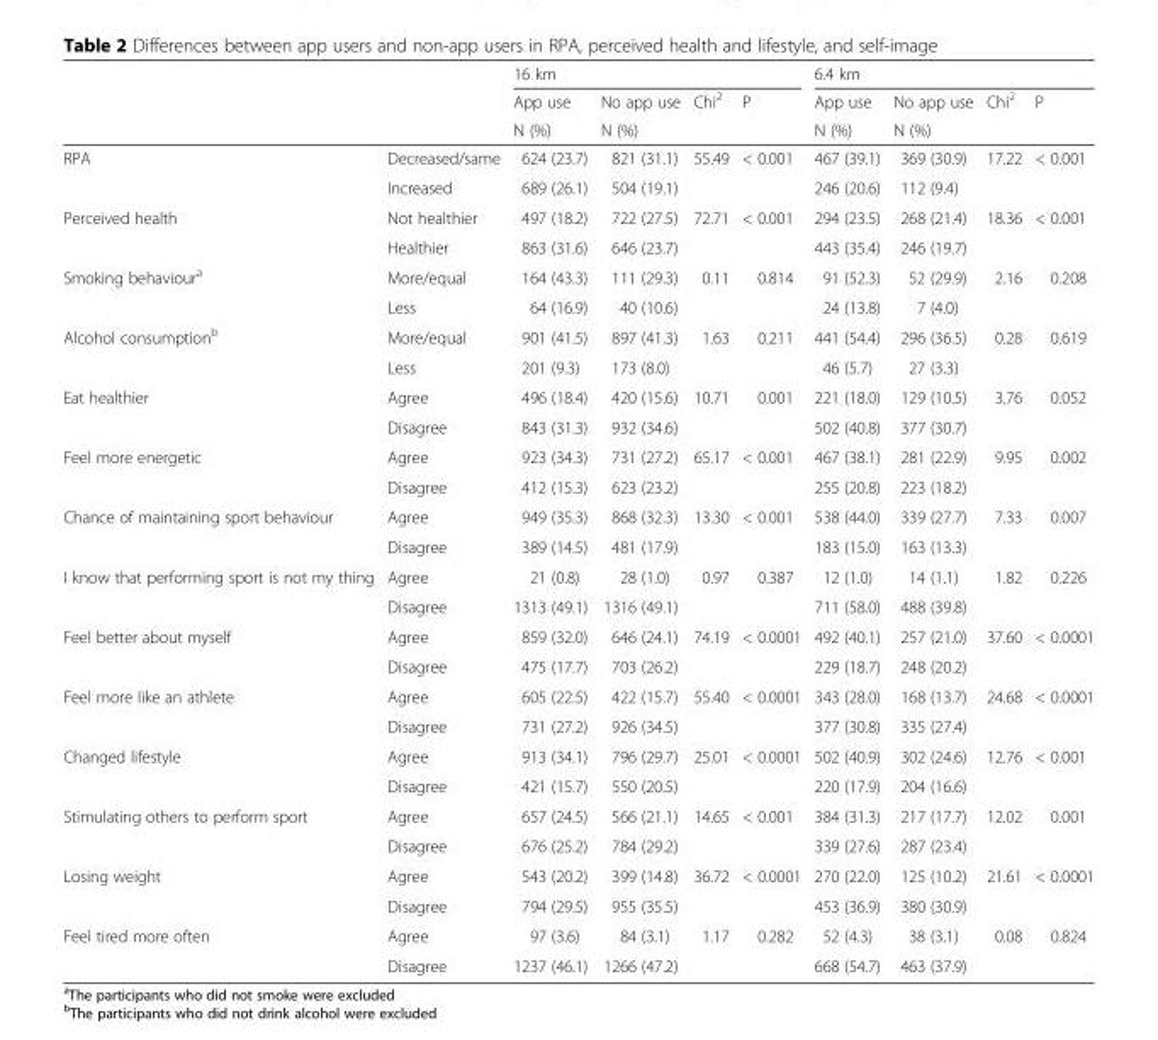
<table><thead><tr><td rowspan="3"></td><td rowspan="3"></td><td colspan="4">16 km</td><td colspan="4">6.4 km</td></tr><tr><td rowspan="2">App use N (%)</td><td rowspan="2">No app use N (%)</td><td rowspan="2">Chi<sup>2</sup></td><td rowspan="2">P</td><td rowspan="2">App use N (%)</td><td rowspan="2">No app use N (%)</td><td rowspan="2">Chi<sup>2</sup></td><td rowspan="2">P</td></tr><tr></tr></thead><tbody><tr><td rowspan="2">RPA</td><td>Decreased/same</td><td>624 (23.7)</td><td>821 (31.1)</td><td rowspan="2">55.49</td><td rowspan="2">&lt; 0.001</td><td>467 (39.1)</td><td>369 (30.9)</td><td rowspan="2">17.22</td><td rowspan="2">&lt; 0.001</td></tr><tr><td>Increased</td><td>689 (26.1)</td><td>504 (19.1)</td><td>246 (20.6)</td><td>112 (9.4)</td></tr><tr><td rowspan="2">Perceived health</td><td>Not healthier</td><td>497 (18.2)</td><td>722 (27.5)</td><td>72.71</td><td>&lt; 0.001</td><td>294 (23.5)</td><td>268 (21.4)</td><td>18.36</td><td>&lt; 0.001</td></tr><tr><td>Healthier</td><td>863 (31.6)</td><td>646 (23.7)</td><td></td><td></td><td>443 (35.4)</td><td>246 (19.7)</td><td></td><td></td></tr><tr><td rowspan="2">Smoking behaviour<sup>a</sup></td><td>More/equal</td><td>164 (43.3)</td><td>111 (29.3)</td><td>0.11</td><td>0.814</td><td>91 (52.3)</td><td>52 (29.9)</td><td>2.16</td><td>0.208</td></tr><tr><td>Less</td><td>64 (16.9)</td><td>40 (10.6)</td><td></td><td></td><td>24 (13.8)</td><td>7 (4.0)</td><td></td><td></td></tr><tr><td rowspan="2">Alcohol consumption<sup>b</sup></td><td>More/equal</td><td>901 (41.5)</td><td>897 (41.3)</td><td>1.63</td><td>0.211</td><td>441 (54.4)</td><td>296 (36.5)</td><td>0.28</td><td>0.619</td></tr><tr><td>Less</td><td>201 (9.3)</td><td>173 (8.0)</td><td></td><td></td><td>46 (5.7)</td><td>27 (3.3)</td><td></td><td></td></tr><tr><td rowspan="2">Eat healthier</td><td>Agree</td><td>496 (18.4)</td><td>420 (15.6)</td><td>10.71</td><td>0.001</td><td>221 (18.0)</td><td>129 (10.5)</td><td>3.76</td><td>0.052</td></tr><tr><td>Disagree</td><td>843 (31.3)</td><td>932 (34.6)</td><td></td><td></td><td>502 (40.8)</td><td>377 (30.7)</td><td></td><td></td></tr><tr><td rowspan="2">Feel more energetic</td><td>Agree</td><td>923 (34.3)</td><td>731 (27.2)</td><td>65.17</td><td>&lt; 0.001</td><td>467 (38.1)</td><td>281 (22.9)</td><td>9.95</td><td>0.002</td></tr><tr><td>Disagree</td><td>412 (15.3)</td><td>623 (23.2)</td><td></td><td></td><td>255 (20.8)</td><td>223 (18.2)</td><td></td><td></td></tr><tr><td rowspan="2">Chance of maintaining sport behaviour</td><td>Agree</td><td>949 (35.3)</td><td>868 (32.3)</td><td>13.30</td><td>&lt; 0.001</td><td>538 (44.0)</td><td>339 (27.7)</td><td>7.33</td><td>0.007</td></tr><tr><td>Disagree</td><td>389 (14.5)</td><td>481 (17.9)</td><td></td><td></td><td>183 (15.0)</td><td>163 (13.3)</td><td></td><td></td></tr><tr><td rowspan="2">I know that performing sport is not my thing</td><td>Agree</td><td>21 (0.8)</td><td>28 (1.0)</td><td>0.97</td><td>0.387</td><td>12 (1.0)</td><td>14 (1.1)</td><td>1.82</td><td>0.226</td></tr><tr><td>Disagree</td><td>1313 (49.1)</td><td>1316 (49.1)</td><td></td><td></td><td>711 (58.0)</td><td>488 (39.8)</td><td></td><td></td></tr><tr><td rowspan="2">Feel better about myself</td><td>Agree</td><td>859 (32.0)</td><td>646 (24.1)</td><td>74.19</td><td>&lt; 0.0001</td><td>492 (40.1)</td><td>257 (21.0)</td><td>37.60</td><td>&lt; 0.0001</td></tr><tr><td>Disagree</td><td>475 (17.7)</td><td>703 (26.2)</td><td></td><td></td><td>229 (18.7)</td><td>248 (20.2)</td><td></td><td></td></tr><tr><td rowspan="2">Feel more like an athlete</td><td>Agree</td><td>605 (22.5)</td><td>422 (15.7)</td><td>55.40</td><td>&lt; 0.0001</td><td>343 (28.0)</td><td>168 (13.7)</td><td>24.68</td><td>&lt; 0.0001</td></tr><tr><td>Disagree</td><td>731 (27.2)</td><td>926 (34.5)</td><td></td><td></td><td>377 (30.8)</td><td>335 (27.4)</td><td></td><td></td></tr><tr><td rowspan="2">Changed lifestyle</td><td>Agree</td><td>913 (34.1)</td><td>796 (29.7)</td><td>25.01</td><td>&lt; 0.0001</td><td>502 (40.9)</td><td>302 (24.6)</td><td>12.76</td><td>&lt; 0.001</td></tr><tr><td>Disagree</td><td>421 (15.7)</td><td>550 (20.5)</td><td></td><td></td><td>220 (17.9)</td><td>204 (16.6)</td><td></td><td></td></tr><tr><td rowspan="2">Stimulating others to perform sport</td><td>Agree</td><td>657 (24.5)</td><td>566 (21.1)</td><td>14.65</td><td>&lt; 0.001</td><td>384 (31.3)</td><td>217 (17.7)</td><td>12.02</td><td>0.001</td></tr><tr><td>Disagree</td><td>676 (25.2)</td><td>784 (29.2)</td><td></td><td></td><td>339 (27.6)</td><td>287 (23.4)</td><td></td><td></td></tr><tr><td rowspan="2">Losing weight</td><td>Agree</td><td>543 (20.2)</td><td>399 (14.8)</td><td>36.72</td><td>&lt; 0.0001</td><td>270 (22.0)</td><td>125 (10.2)</td><td>21.61</td><td>&lt; 0.0001</td></tr><tr><td>Disagree</td><td>794 (29.5)</td><td>955 (35.5)</td><td></td><td></td><td>453 (36.9)</td><td>380 (30.9)</td><td></td><td></td></tr><tr><td rowspan="2">Feel tired more often</td><td>Agree</td><td>97 (3.6)</td><td>84 (3.1)</td><td>1.17</td><td>0.282</td><td>52 (4.3)</td><td>38 (3.1)</td><td>0.08</td><td>0.824</td></tr><tr><td>Disagree</td><td>1237 (46.1)</td><td>1266 (47.2)</td><td></td><td></td><td>668 (54.7)</td><td>463 (37.9)</td><td></td><td></td></tr></tbody></table>